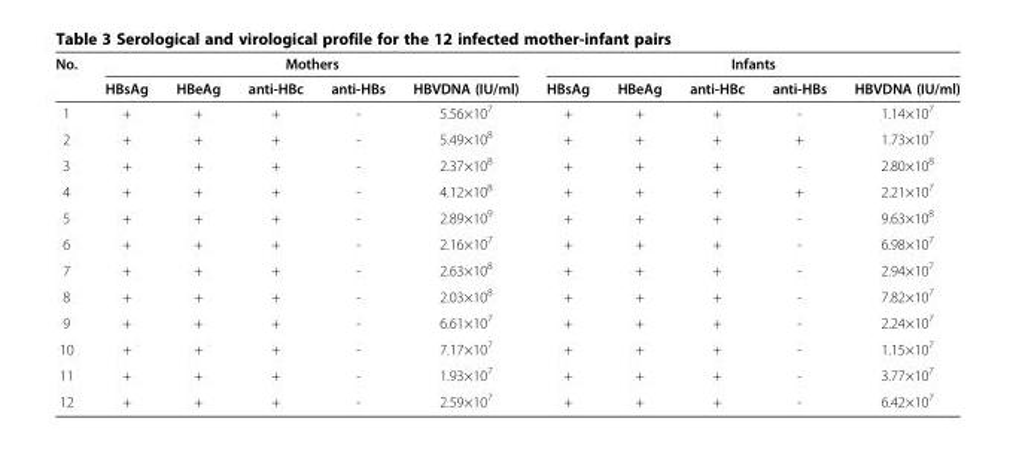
<table><thead><tr><td rowspan="2">No.</td><td colspan="5">Mothers</td><td colspan="5">Infants</td></tr><tr><td>HBsAg</td><td>HBeAg</td><td>anti-HBc</td><td>anti-HBs</td><td>HBVDNA (IU/ml)</td><td>HBsAg</td><td>HBeAg</td><td>anti-HBc</td><td>anti-HBs</td><td>HBVDNA (IU/ml)</td></tr></thead><tbody><tr><td>1</td><td>+</td><td>+</td><td>+</td><td>-</td><td>5.56×10<sup>7</sup></td><td>+</td><td>+</td><td>+</td><td>-</td><td>1.14×10<sup>7</sup></td></tr><tr><td>2</td><td>+</td><td>+</td><td>+</td><td>-</td><td>5.49×10<sup>8</sup></td><td>+</td><td>+</td><td>+</td><td>+</td><td>1.73×10<sup>7</sup></td></tr><tr><td>3</td><td>+</td><td>+</td><td>+</td><td>-</td><td>2.37×10<sup>8</sup></td><td>+</td><td>+</td><td>+</td><td>-</td><td>2.80×10<sup>8</sup></td></tr><tr><td>4</td><td>+</td><td>+</td><td>+</td><td>-</td><td>4.12×10<sup>8</sup></td><td>+</td><td>+</td><td>+</td><td>+</td><td>2.21×10<sup>7</sup></td></tr><tr><td>5</td><td>+</td><td>+</td><td>+</td><td>-</td><td>2.89×10<sup>9</sup></td><td>+</td><td>+</td><td>+</td><td>-</td><td>9.63×10<sup>8</sup></td></tr><tr><td>6</td><td>+</td><td>+</td><td>+</td><td>-</td><td>2.16×10<sup>7</sup></td><td>+</td><td>+</td><td>+</td><td>-</td><td>6.98×10<sup>7</sup></td></tr><tr><td>7</td><td>+</td><td>+</td><td>+</td><td>-</td><td>2.63×10<sup>8</sup></td><td>+</td><td>+</td><td>+</td><td>-</td><td>2.94×10<sup>7</sup></td></tr><tr><td>8</td><td>+</td><td>+</td><td>+</td><td>-</td><td>2.03×10<sup>8</sup></td><td>+</td><td>+</td><td>+</td><td>-</td><td>7.82×10<sup>7</sup></td></tr><tr><td>9</td><td>+</td><td>+</td><td>+</td><td>-</td><td>6.61×10<sup>7</sup></td><td>+</td><td>+</td><td>+</td><td>-</td><td>2.24×10<sup>7</sup></td></tr><tr><td>10</td><td>+</td><td>+</td><td>+</td><td>-</td><td>7.17×10<sup>7</sup></td><td>+</td><td>+</td><td>+</td><td>-</td><td>1.15×10<sup>7</sup></td></tr><tr><td>11</td><td>+</td><td>+</td><td>+</td><td>-</td><td>1.93×10<sup>7</sup></td><td>+</td><td>+</td><td>+</td><td>-</td><td>3.77×10<sup>7</sup></td></tr><tr><td>12</td><td>+</td><td>+</td><td>+</td><td>-</td><td>2.59×10<sup>7</sup></td><td>+</td><td>+</td><td>+</td><td>-</td><td>6.42×10<sup>7</sup></td></tr></tbody></table>